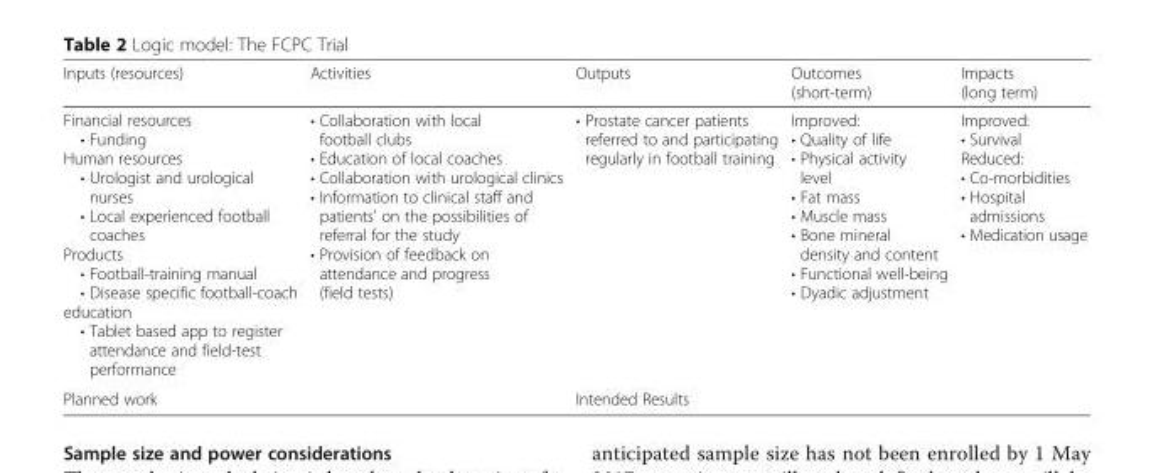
<table><thead><tr><td>Inputs (resources)</td><td>Activities</td><td>Outputs</td><td>Outcomes (short-term)</td><td>Impacts (long term)</td></tr></thead><tbody><tr><td>Financial resources • Funding Human resources • Urologist and urological nurses • Local experienced football coaches Products • Football-training manual • Disease specific football-coach education • Tablet based app to register attendance and field-test performance</td><td>• Collaboration with local football clubs • Education of local coaches • Collaboration with urological clinics • Information to clinical staff and patients&#x27; on the possibilities of referral for the study • Provision of feedback on attendance and progress (field tests)</td><td>• Prostate cancer patients referred to and participating regularly in football training</td><td>Improved: • Quality of life • Physical activity level • Fat mass • Muscle mass • Bone mineral density and content • Functional well-being • Dyadic adjustment</td><td>Improved: • Survival Reduced: • Co-morbidities • Hospital admissions • Medication usage</td></tr><tr><td colspan="2">Planned work</td><td colspan="3">Intended Results</td></tr></tbody></table>